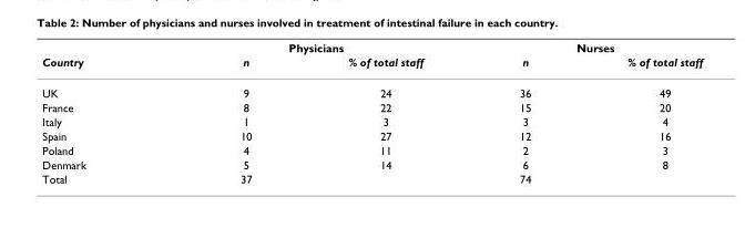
<table><thead><tr><td rowspan="2">Country</td><td colspan="2">Physicians</td><td colspan="2">Nurses</td></tr><tr><td>n</td><td>% of total staff</td><td>n</td><td>% of total staff</td></tr></thead><tbody><tr><td>UK</td><td>9</td><td>24</td><td>36</td><td>49</td></tr><tr><td>France</td><td>8</td><td>22</td><td>15</td><td>20</td></tr><tr><td>Italy</td><td>1</td><td>3</td><td>3</td><td>4</td></tr><tr><td>Spain</td><td>10</td><td>27</td><td>12</td><td>16</td></tr><tr><td>Poland</td><td>4</td><td>11</td><td>2</td><td>3</td></tr><tr><td>Denmark</td><td>5</td><td>14</td><td>6</td><td>8</td></tr><tr><td>Total</td><td>37</td><td></td><td>74</td><td></td></tr></tbody></table>